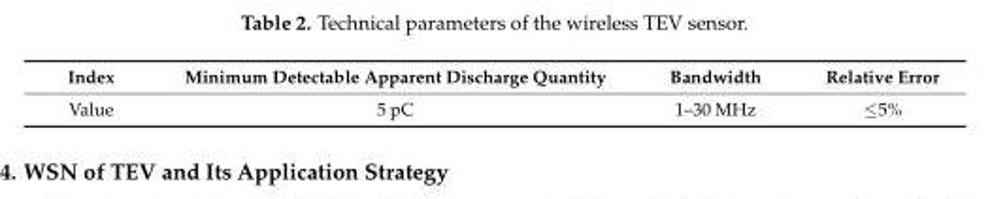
<table><thead><tr><td>Index</td><td>Minimum Detectable Apparent Discharge Quantity</td><td>Bandwidth</td><td>Relative Error</td></tr></thead><tbody><tr><td>Value</td><td>5 pC</td><td>1–30 MHz</td><td>≤5%</td></tr></tbody></table>